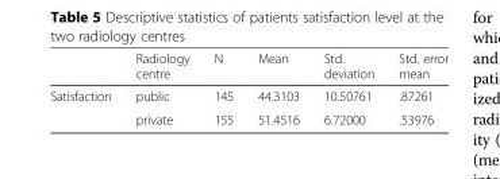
<table><thead><tr><td></td><td>Radiology centre</td><td>N</td><td>Mean</td><td>Std. deviation</td><td>Std. error mean</td></tr></thead><tbody><tr><td rowspan="2">Satisfaction</td><td>public</td><td>145</td><td>44.3103</td><td>10.50761</td><td>.87261</td></tr><tr><td>private</td><td>155</td><td>51.4516</td><td>6.72000</td><td>.53976</td></tr></tbody></table>